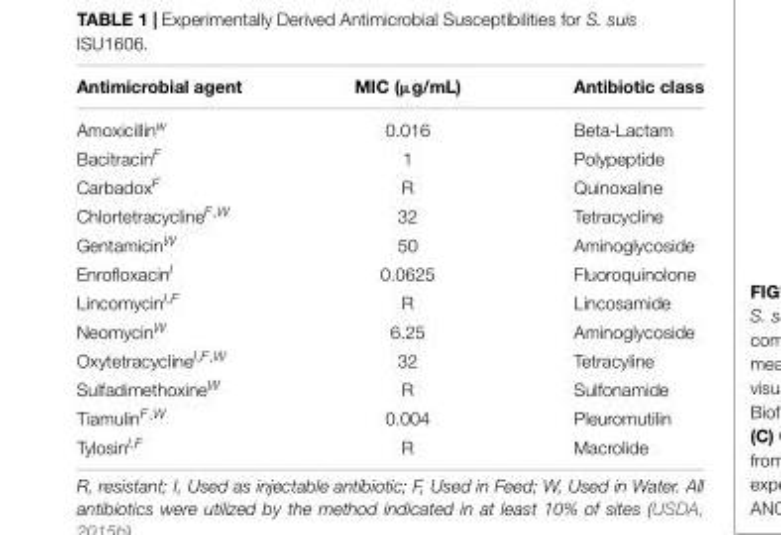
<table><thead><tr><td>Antimicrobial agent</td><td>MIC (µg/mL)</td><td>Antibiotic class</td></tr></thead><tbody><tr><td>Amoxicillin<sup>w</sup></td><td>0.016</td><td>Beta-Lactam</td></tr><tr><td>Bacitracin<sup>F</sup></td><td>1</td><td>Polypeptide</td></tr><tr><td>Carbadox<sup>F</sup></td><td>R</td><td>Quinoxaline</td></tr><tr><td>Chlortetracycline<sup>F,W</sup></td><td>32</td><td>Tetracycline</td></tr><tr><td>Gentamicin<sup>W</sup></td><td>50</td><td>Aminoglycoside</td></tr><tr><td>Enrofloxacin<sup>I</sup></td><td>0.0625</td><td>Fluoroquinolone</td></tr><tr><td>Lincomycin<sup>I,F</sup></td><td>R</td><td>Lincosamide</td></tr><tr><td>Neomycin<sup>W</sup></td><td>6.25</td><td>Aminoglycoside</td></tr><tr><td>Oxytetracycline<sup>I,F,W</sup></td><td>32</td><td>Tetracyline</td></tr><tr><td>Sulfadimethoxine<sup>W</sup></td><td>R</td><td>Sulfonamide</td></tr><tr><td>Tiamulin<sup>F,W</sup></td><td>0.004</td><td>Pleuromutilin</td></tr><tr><td>Tylosin<sup>I,F</sup></td><td>R</td><td>Macrolide</td></tr></tbody></table>